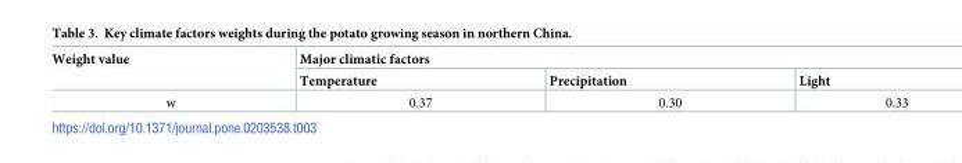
<table><thead><tr><td rowspan="2">Weight value</td><td colspan="3">Major climatic factors</td></tr><tr><td>Temperature</td><td>Precipitation</td><td>Light</td></tr></thead><tbody><tr><td>w</td><td>0.37</td><td>0.30</td><td>0.33</td></tr></tbody></table>